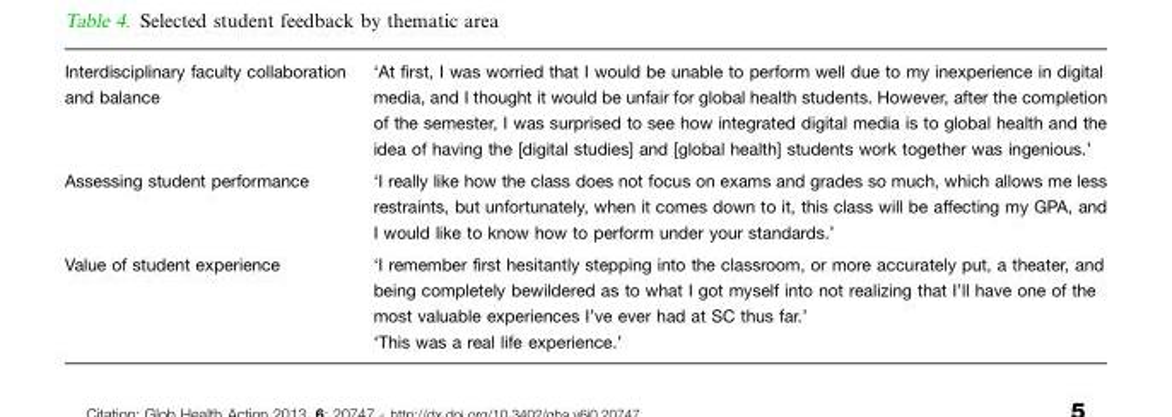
<table><tbody><tr><td>Interdisciplinary faculty collaboration and balance</td><td>‘At first, I was worried that I would be unable to perform well due to my inexperience in digital media, and I thought it would be unfair for global health students. However, after the completion of the semester, I was surprised to see how integrated digital media is to global health and the idea of having the [digital studies] and [global health] students work together was ingenious.’</td></tr><tr><td>Assessing student performance</td><td>‘I really like how the class does not focus on exams and grades so much, which allows me less restraints, but unfortunately, when it comes down to it, this class will be affecting my GPA, and I would like to know how to perform under your standards.’</td></tr><tr><td rowspan="2">Value of student experience</td><td>‘I remember first hesitantly stepping into the classroom, or more accurately put, a theater, and being completely bewildered as to what I got myself into not realizing that I’ll have one of the most valuable experiences I’ve ever had at SC thus far.’</td></tr><tr><td>‘This was a real life experience.’</td></tr></tbody></table>